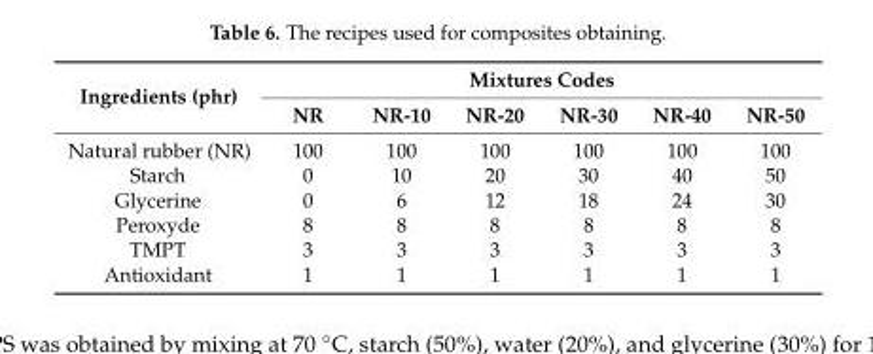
<table><thead><tr><td rowspan="2">Ingredients (phr)</td><td colspan="6">Mixtures Codes</td></tr><tr><td>NR</td><td>NR-10</td><td>NR-20</td><td>NR-30</td><td>NR-40</td><td>NR-50</td></tr></thead><tbody><tr><td>Natural rubber (NR)</td><td>100</td><td>100</td><td>100</td><td>100</td><td>100</td><td>100</td></tr><tr><td>Starch</td><td>0</td><td>10</td><td>20</td><td>30</td><td>40</td><td>50</td></tr><tr><td>Glycerine</td><td>0</td><td>6</td><td>12</td><td>18</td><td>24</td><td>30</td></tr><tr><td>Peroxyde</td><td>8</td><td>8</td><td>8</td><td>8</td><td>8</td><td>8</td></tr><tr><td>TMPT</td><td>3</td><td>3</td><td>3</td><td>3</td><td>3</td><td>3</td></tr><tr><td>Antioxidant</td><td>1</td><td>1</td><td>1</td><td>1</td><td>1</td><td>1</td></tr></tbody></table>